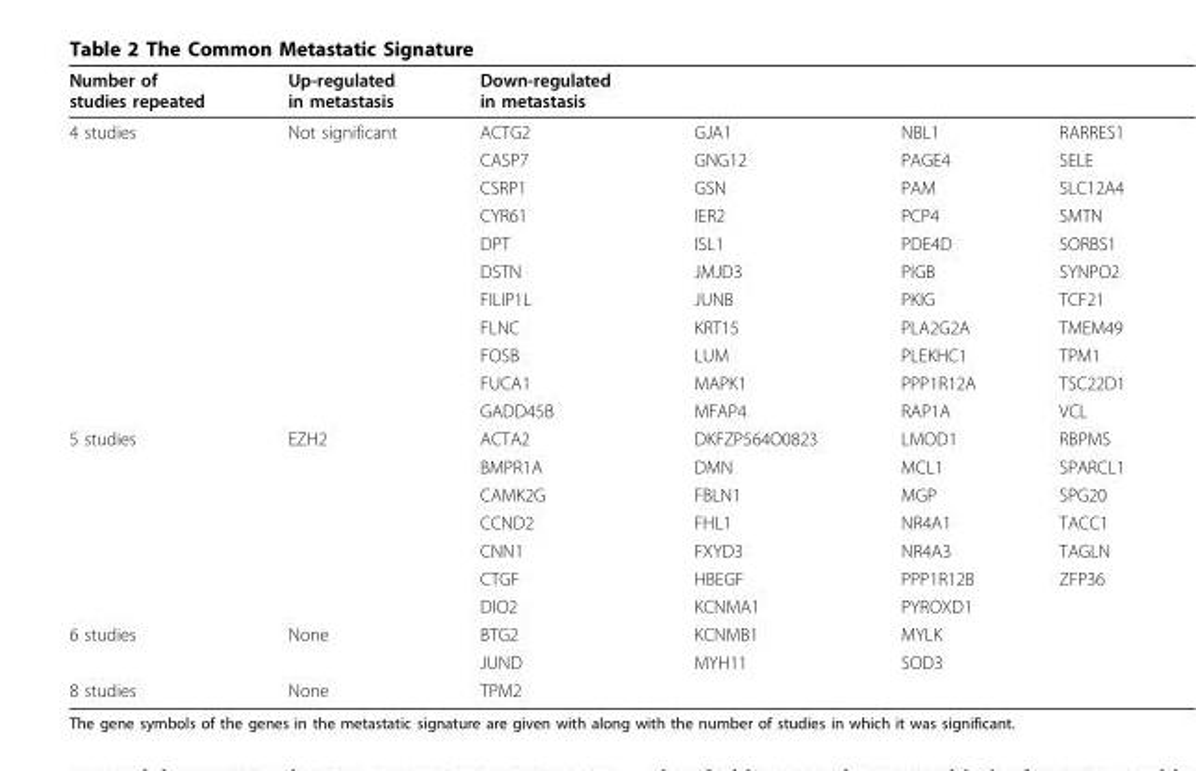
<table><thead><tr><td>Number of studies repeated</td><td>Up-regulated in metastasis</td><td>Down-regulated in metastasis</td><td></td><td></td><td></td></tr></thead><tbody><tr><td rowspan="11">4 studies</td><td>Not significant</td><td>ACTG2</td><td>GJA1</td><td>NBL1</td><td>RARRES1</td></tr><tr><td></td><td>CASP7</td><td>GNG12</td><td>PAGE4</td><td>SELE</td></tr><tr><td></td><td>CSRP1</td><td>GSN</td><td>PAM</td><td>SLC12A4</td></tr><tr><td></td><td>CYR61</td><td>IER2</td><td>PCP4</td><td>SMTN</td></tr><tr><td></td><td>DPT</td><td>ISL1</td><td>PDE4D</td><td>SORBS1</td></tr><tr><td></td><td>DSTN</td><td>JMJD3</td><td>PIGB</td><td>SYNPO2</td></tr><tr><td></td><td>FILIP1L</td><td>JUNB</td><td>PKIG</td><td>TCF21</td></tr><tr><td></td><td>FLNC</td><td>KRT15</td><td>PLA2G2A</td><td>TMEM49</td></tr><tr><td></td><td>FOSB</td><td>LUM</td><td>PLEKHC1</td><td>TPM1</td></tr><tr><td></td><td>FUCA1</td><td>MAPK1</td><td>PPP1R12A</td><td>TSC22D1</td></tr><tr><td></td><td>GADD45B</td><td>MFAP4</td><td>RAP1A</td><td>VCL</td></tr><tr><td rowspan="7">5 studies</td><td>EZH2</td><td>ACTA2</td><td>DKFZP564O0823</td><td>LMOD1</td><td>RBPMS</td></tr><tr><td></td><td>BMPR1A</td><td>DMN</td><td>MCL1</td><td>SPARCL1</td></tr><tr><td></td><td>CAMK2G</td><td>FBLN1</td><td>MGP</td><td>SPG20</td></tr><tr><td></td><td>CCND2</td><td>FHL1</td><td>NR4A1</td><td>TACC1</td></tr><tr><td></td><td>CNN1</td><td>FXYD3</td><td>NR4A3</td><td>TAGLN</td></tr><tr><td></td><td>CTGF</td><td>HBEGF</td><td>PPP1R12B</td><td>ZFP36</td></tr><tr><td></td><td>DIO2</td><td>KCNMA1</td><td>PYROXD1</td><td></td></tr><tr><td rowspan="2">6 studies</td><td>None</td><td>BTG2</td><td>KCNMB1</td><td>MYLK</td><td></td></tr><tr><td></td><td>JUND</td><td>MYH11</td><td>SOD3</td><td></td></tr><tr><td>8 studies</td><td>None</td><td>TPM2</td><td></td><td></td><td></td></tr></tbody></table>